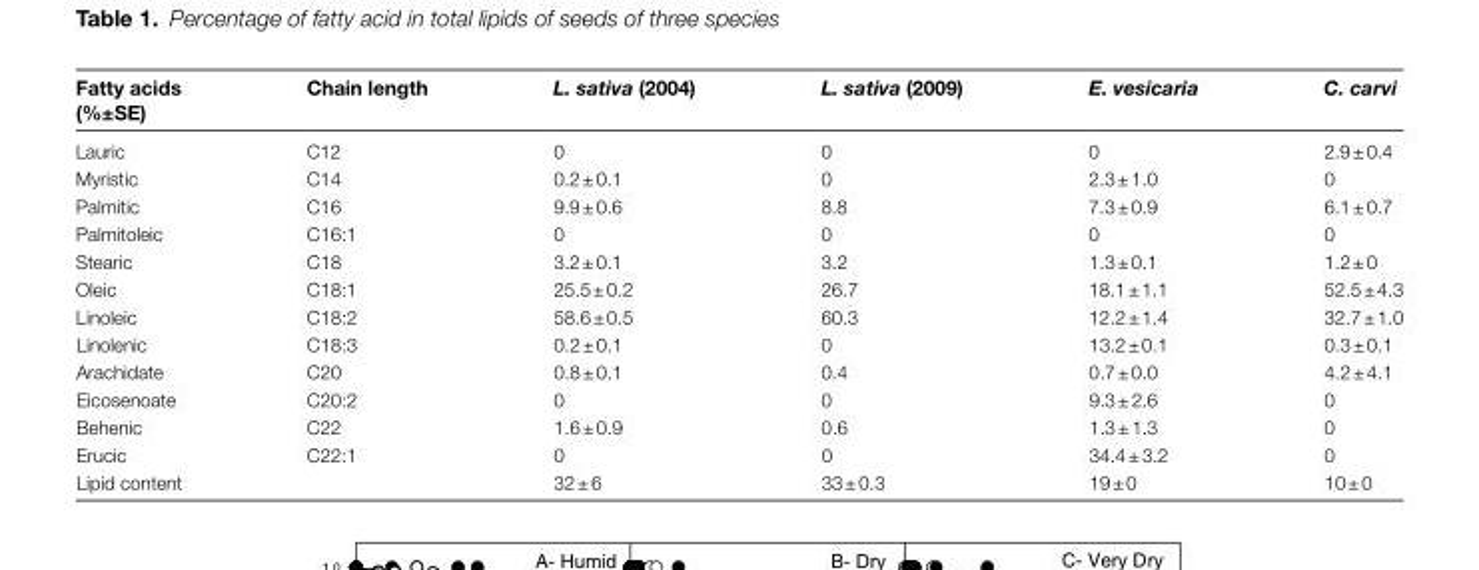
<table><thead><tr><td>Fatty acids (%±SE)</td><td>Chain length</td><td>L. sativa (2004)</td><td>L. sativa (2009)</td><td>E. vesicaria</td><td>C. carvi</td></tr></thead><tbody><tr><td>Lauric</td><td>C12</td><td>0</td><td>0</td><td>0</td><td>2.9 ± 0.4</td></tr><tr><td>Myristic</td><td>C14</td><td>0.2 ± 0.1</td><td>0</td><td>2.3 ± 1.0</td><td>0</td></tr><tr><td>Palmitic</td><td>C16</td><td>9.9 ± 0.6</td><td>8.8</td><td>7.3 ± 0.9</td><td>6.1 ± 0.7</td></tr><tr><td>Palmitoleic</td><td>C16:1</td><td>0</td><td>0</td><td>0</td><td>0</td></tr><tr><td>Stearic</td><td>C18</td><td>3.2 ± 0.1</td><td>3.2</td><td>1.3 ± 0.1</td><td>1.2 ± 0</td></tr><tr><td>Oleic</td><td>C18:1</td><td>25.5 ± 0.2</td><td>26.7</td><td>18.1 ± 1.1</td><td>52.5 ± 4.3</td></tr><tr><td>Linoleic</td><td>C18:2</td><td>58.6 ± 0.5</td><td>60.3</td><td>12.2 ± 1.4</td><td>32.7 ± 1.0</td></tr><tr><td>Linolenic</td><td>C18:3</td><td>0.2 ± 0.1</td><td>0</td><td>13.2 ± 0.1</td><td>0.3 ± 0.1</td></tr><tr><td>Arachidate</td><td>C20</td><td>0.8 ± 0.1</td><td>0.4</td><td>0.7 ± 0.0</td><td>4.2 ± 4.1</td></tr><tr><td>Eicosenoate</td><td>C20:2</td><td>0</td><td>0</td><td>9.3 ± 2.6</td><td>0</td></tr><tr><td>Behenic</td><td>C22</td><td>1.6 ± 0.9</td><td>0.6</td><td>1.3 ± 1.3</td><td>0</td></tr><tr><td>Erucic</td><td>C22:1</td><td>0</td><td>0</td><td>34.4 ± 3.2</td><td>0</td></tr><tr><td colspan="2">Lipid content</td><td>32 ± 6</td><td>33 ± 0.3</td><td>19 ± 0</td><td>10 ± 0</td></tr></tbody></table>